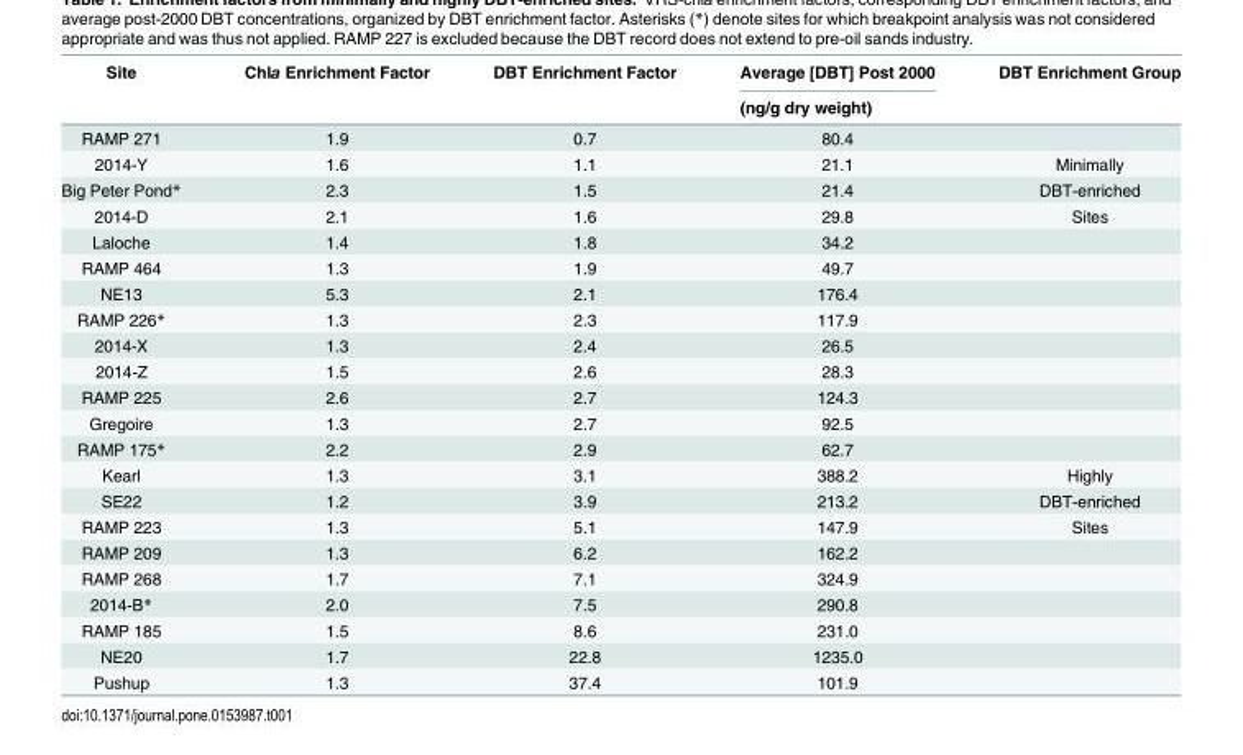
<table><thead><tr><td rowspan="2">Site</td><td rowspan="2">Chla Enrichment Factor</td><td rowspan="2">DBT Enrichment Factor</td><td rowspan="2">Average [DBT] Post 2000 (ng/g dry weight)</td><td rowspan="2">DBT Enrichment Group</td></tr><tr></tr></thead><tbody><tr><td>RAMP 271</td><td>1.9</td><td>0.7</td><td>80.4</td><td></td></tr><tr><td>2014-Y</td><td>1.6</td><td>1.1</td><td>21.1</td><td>Minimally</td></tr><tr><td>Big Peter Pond*</td><td>2.3</td><td>1.5</td><td>21.4</td><td>DBT-enriched</td></tr><tr><td>2014-D</td><td>2.1</td><td>1.6</td><td>29.8</td><td>Sites</td></tr><tr><td>Laloche</td><td>1.4</td><td>1.8</td><td>34.2</td><td></td></tr><tr><td>RAMP 464</td><td>1.3</td><td>1.9</td><td>49.7</td><td></td></tr><tr><td>NE13</td><td>5.3</td><td>2.1</td><td>176.4</td><td></td></tr><tr><td>RAMP 226*</td><td>1.3</td><td>2.3</td><td>117.9</td><td></td></tr><tr><td>2014-X</td><td>1.3</td><td>2.4</td><td>26.5</td><td></td></tr><tr><td>2014-Z</td><td>1.5</td><td>2.6</td><td>28.3</td><td></td></tr><tr><td>RAMP 225</td><td>2.6</td><td>2.7</td><td>124.3</td><td></td></tr><tr><td>Gregoire</td><td>1.3</td><td>2.7</td><td>92.5</td><td></td></tr><tr><td>RAMP 175*</td><td>2.2</td><td>2.9</td><td>62.7</td><td></td></tr><tr><td>Kearl</td><td>1.3</td><td>3.1</td><td>388.2</td><td>Highly</td></tr><tr><td>SE22</td><td>1.2</td><td>3.9</td><td>213.2</td><td>DBT-enriched</td></tr><tr><td>RAMP 223</td><td>1.3</td><td>5.1</td><td>147.9</td><td>Sites</td></tr><tr><td>RAMP 209</td><td>1.3</td><td>6.2</td><td>162.2</td><td></td></tr><tr><td>RAMP 268</td><td>1.7</td><td>7.1</td><td>324.9</td><td></td></tr><tr><td>2014-B*</td><td>2.0</td><td>7.5</td><td>290.8</td><td></td></tr><tr><td>RAMP 185</td><td>1.5</td><td>8.6</td><td>231.0</td><td></td></tr><tr><td>NE20</td><td>1.7</td><td>22.8</td><td>1235.0</td><td></td></tr><tr><td>Pushup</td><td>1.3</td><td>37.4</td><td>101.9</td><td></td></tr></tbody></table>